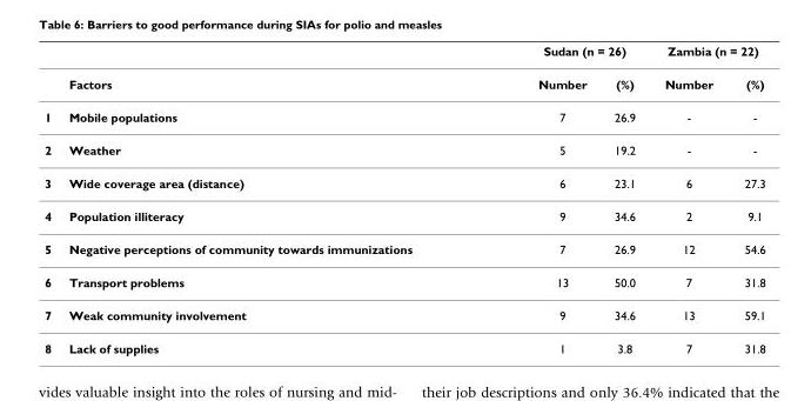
<table><thead><tr><td rowspan="2"></td><td rowspan="2">Factors</td><td colspan="2">Sudan (n = 26)</td><td colspan="2">Zambia (n = 22)</td></tr><tr><td>Number</td><td>(%)</td><td>Number</td><td>(%)</td></tr></thead><tbody><tr><td>1</td><td>Mobile populations</td><td>7</td><td>26.9</td><td>-</td><td>-</td></tr><tr><td>2</td><td>Weather</td><td>5</td><td>19.2</td><td>-</td><td>-</td></tr><tr><td>3</td><td>Wide coverage area (distance)</td><td>6</td><td>23.1</td><td>6</td><td>27.3</td></tr><tr><td>4</td><td>Population illiteracy</td><td>9</td><td>34.6</td><td>2</td><td>9.1</td></tr><tr><td>5</td><td>Negative perceptions of community towards immunizations</td><td>7</td><td>26.9</td><td>12</td><td>54.6</td></tr><tr><td>6</td><td>Transport problems</td><td>13</td><td>50.0</td><td>7</td><td>31.8</td></tr><tr><td>7</td><td>Weak community involvement</td><td>9</td><td>34.6</td><td>13</td><td>59.1</td></tr><tr><td>8</td><td>Lack of supplies</td><td>1</td><td>3.8</td><td>7</td><td>31.8</td></tr></tbody></table>